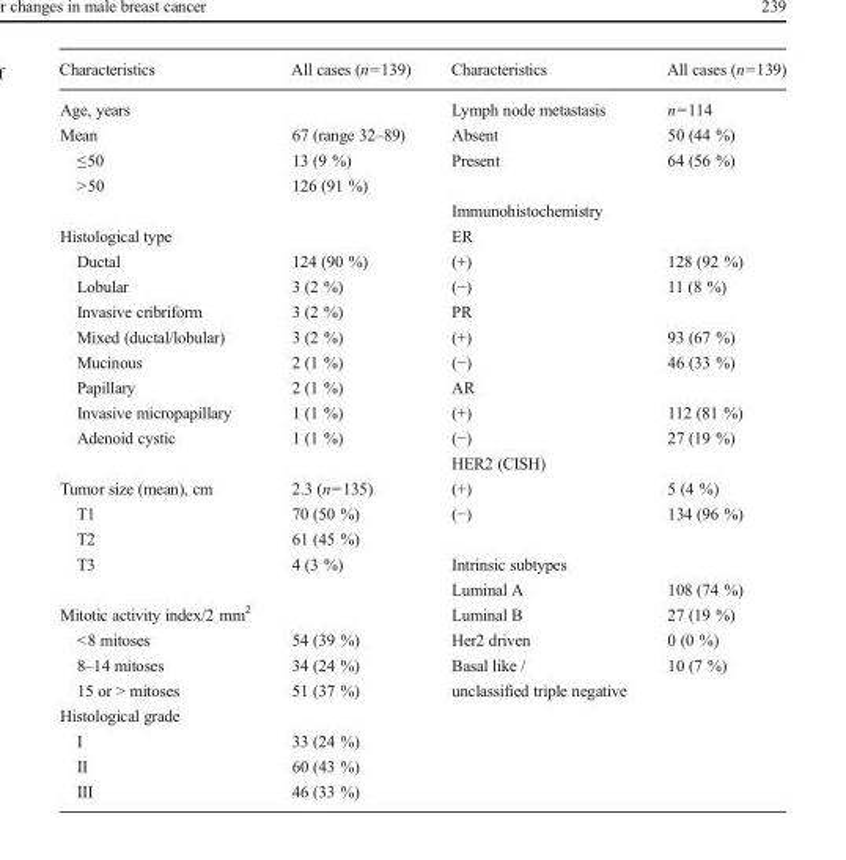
<table><thead><tr><td>Characteristics</td><td>All cases (n=139)</td><td>Characteristics</td><td>All cases (n=139)</td></tr></thead><tbody><tr><td>Age, years</td><td></td><td>Lymph node metastasis</td><td>n=114</td></tr><tr><td>Mean</td><td>67 (range 32–89)</td><td>Absent</td><td>50 (44 %)</td></tr><tr><td>≤50</td><td>13 (9 %)</td><td>Present</td><td>64 (56 %)</td></tr><tr><td rowspan="2">&gt;50</td><td>126 (91 %)</td><td></td><td></td></tr><tr><td></td><td>Immunohistochemistry</td><td></td></tr><tr><td>Histological type</td><td></td><td>ER</td><td></td></tr><tr><td>Ductal</td><td>124 (90 %)</td><td>(+)</td><td>128 (92 %)</td></tr><tr><td>Lobular</td><td>3 (2 %)</td><td>(−)</td><td>11 (8 %)</td></tr><tr><td>Invasive cribriform</td><td>3 (2 %)</td><td>PR</td><td></td></tr><tr><td>Mixed (ductal/lobular)</td><td>3 (2 %)</td><td>(+)</td><td>93 (67 %)</td></tr><tr><td>Mucinous</td><td>2 (1 %)</td><td>(−)</td><td>46 (33 %)</td></tr><tr><td>Papillary</td><td>2 (1 %)</td><td>AR</td><td></td></tr><tr><td>Invasive micropapillary</td><td>1 (1 %)</td><td>(+)</td><td>112 (81 %)</td></tr><tr><td rowspan="2">Adenoid cystic</td><td>1 (1 %)</td><td>(−)</td><td>27 (19 %)</td></tr><tr><td></td><td>HER2 (CISH)</td><td></td></tr><tr><td>Tumor size (mean), cm</td><td>2.3 (n=135)</td><td>(+)</td><td>5 (4 %)</td></tr><tr><td>T1</td><td>70 (50 %)</td><td>(−)</td><td>134 (96 %)</td></tr><tr><td>T2</td><td>61 (45 %)</td><td></td><td></td></tr><tr><td rowspan="2">T3</td><td>4 (3 %)</td><td>Intrinsic subtypes</td><td></td></tr><tr><td></td><td>Luminal A</td><td>108 (74 %)</td></tr><tr><td>Mitotic activity index/2 mm<sup>2</sup></td><td></td><td>Luminal B</td><td>27 (19 %)</td></tr><tr><td>&lt;8 mitoses</td><td>54 (39 %)</td><td>Her2 driven</td><td>0 (0 %)</td></tr><tr><td>8–14 mitoses</td><td>34 (24 %)</td><td>Basal like /</td><td>10 (7 %)</td></tr><tr><td>15 or &gt; mitoses</td><td>51 (37 %)</td><td>unclassified triple negative</td><td></td></tr><tr><td colspan="4">Histological grade</td></tr><tr><td>I</td><td>33 (24 %)</td><td></td><td></td></tr><tr><td>II</td><td>60 (43 %)</td><td></td><td></td></tr><tr><td>III</td><td>46 (33 %)</td><td></td><td></td></tr></tbody></table>